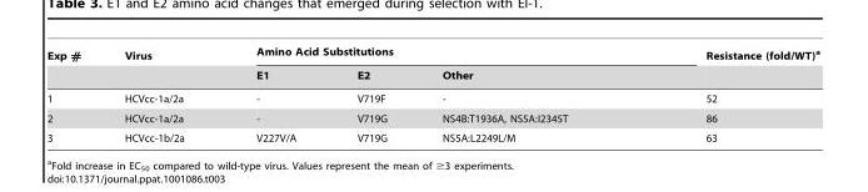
<table><thead><tr><td rowspan="2">Exp #</td><td rowspan="2">Virus</td><td colspan="3">Amino Acid Substitutions</td><td rowspan="2">Resistance (fold/WT)<sup>a</sup></td></tr><tr><td>E1</td><td>E2</td><td>Other</td></tr></thead><tbody><tr><td>1</td><td>HCVcc-1a/2a</td><td>-</td><td>V719F</td><td>-</td><td>52</td></tr><tr><td>2</td><td>HCVcc-1a/2a</td><td>-</td><td>V719G</td><td>NS4B:T1936A, NS5A:I2345T</td><td>86</td></tr><tr><td>3</td><td>HCVcc-1b/2a</td><td>V227V/A</td><td>V719G</td><td>NS5A:L2249L/M</td><td>63</td></tr></tbody></table>